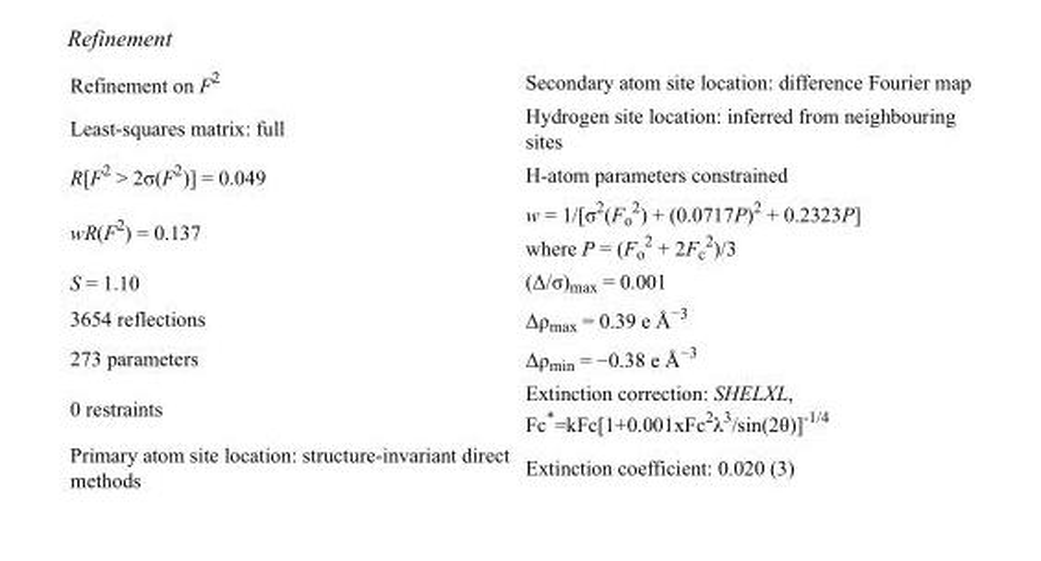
<table><tbody><tr><td>Refinement on F<sup>2</sup></td><td>Secondary atom site location: difference Fourier map</td></tr><tr><td>Least-squares matrix: full</td><td>Hydrogen site location: inferred from neighbouring sites</td></tr><tr><td>R[F<sup>2</sup> &gt; 2σ(F<sup>2</sup>)] = 0.049</td><td>H-atom parameters constrained</td></tr><tr><td>wR(F<sup>2</sup>) = 0.137</td><td>w = 1/[σ<sup>2</sup>(F<sub>o</sub> <sup>2</sup>) + (0.0717P)<sup>2</sup> + 0.2323P] where P = (F<sub>o</sub> <sup>2</sup> + 2F<sub>c</sub> <sup>2</sup>)/3</td></tr><tr><td>S = 1.10</td><td>(Δ/σ)<sub>max</sub> = 0.001</td></tr><tr><td>3654 reflections</td><td>Δρ<sub>max</sub> = 0.39 e Å<sup>−3</sup></td></tr><tr><td>273 parameters</td><td>Δρ<sub>min</sub> = −0.38 e Å<sup>−3</sup></td></tr><tr><td>0 restraints</td><td>Extinction correction: SHELXL, Fc*=kFc[1+0.001xFc<sup>2</sup>λ<sup>3</sup>/sin(2θ)]<sup>-1/4</sup></td></tr><tr><td>Primary atom site location: structure-invariant direct methods</td><td>Extinction coefficient: 0.020 (3)</td></tr></tbody></table>